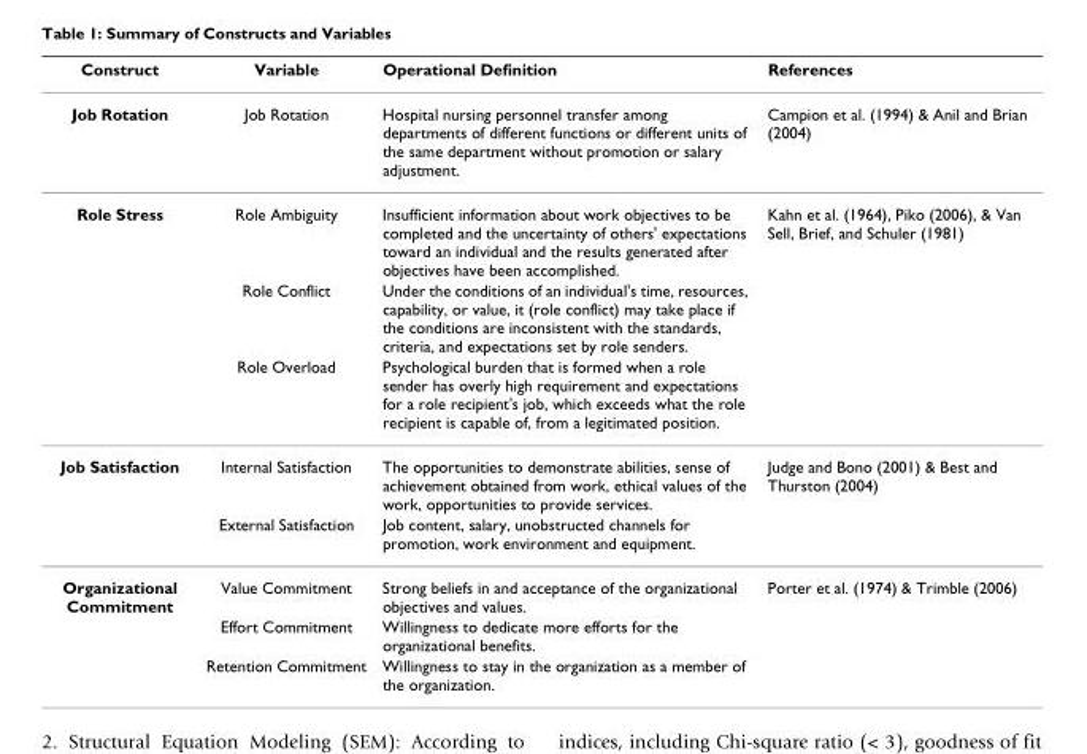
<table><thead><tr><td>Construct</td><td>Variable</td><td>Operational Definition</td><td>References</td></tr></thead><tbody><tr><td>Job Rotation</td><td>Job Rotation</td><td>Hospital nursing personnel transfer among departments of different functions or different units of the same department without promotion or salary adjustment.</td><td>Campion et al. (1994) &amp; Anil and Brian (2004)</td></tr><tr><td rowspan="3">Role Stress</td><td>Role Ambiguity</td><td>Insufficient information about work objectives to be completed and the uncertainty of others&#x27; expectations toward an individual and the results generated after objectives have been accomplished.</td><td>Kahn et al. (1964), Piko (2006), &amp; Van Sell, Brief, and Schuler (1981)</td></tr><tr><td>Role Conflict</td><td>Under the conditions of an individual&#x27;s time, resources, capability, or value, it (role conflict) may take place if the conditions are inconsistent with the standards, criteria, and expectations set by role senders.</td><td></td></tr><tr><td>Role Overload</td><td>Psychological burden that is formed when a role sender has overly high requirement and expectations for a role recipient&#x27;s job, which exceeds what the role recipient is capable of, from a legitimated position.</td><td></td></tr><tr><td rowspan="2">Job Satisfaction</td><td>Internal Satisfaction</td><td>The opportunities to demonstrate abilities, sense of achievement obtained from work, ethical values of the work, opportunities to provide services.</td><td>Judge and Bono (2001) &amp; Best and Thurston (2004)</td></tr><tr><td>External Satisfaction</td><td>Job content, salary, unobstructed channels for promotion, work environment and equipment.</td><td></td></tr><tr><td rowspan="3">Organizational Commitment</td><td>Value Commitment</td><td>Strong beliefs in and acceptance of the organizational objectives and values.</td><td>Porter et al. (1974) &amp; Trimble (2006)</td></tr><tr><td>Effort Commitment</td><td>Willingness to dedicate more efforts for the organizational benefits.</td><td></td></tr><tr><td>Retention Commitment</td><td>Willingness to stay in the organization as a member of the organization.</td><td></td></tr></tbody></table>